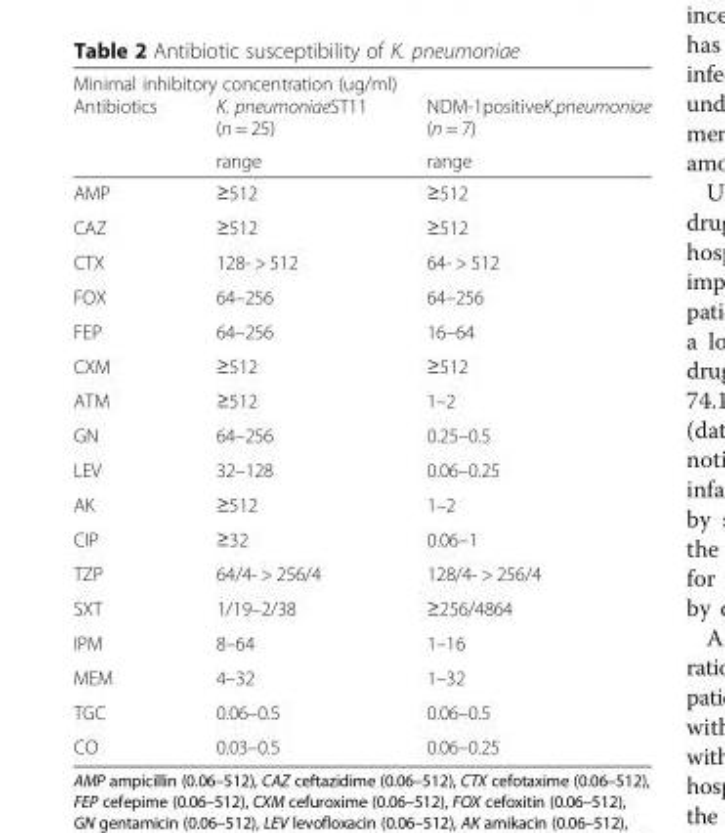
<table><thead><tr><td colspan="3">Minimal inhibitory concentration (ug/ml)</td></tr><tr><td rowspan="2">Antibiotics</td><td rowspan="2">K. pneumoniaeST11 (n = 25) range</td><td rowspan="2">NDM-1positiveK.pneumoniae (n = 7) range</td></tr><tr></tr></thead><tbody><tr><td>AMP</td><td>≥512</td><td>≥512</td></tr><tr><td>CAZ</td><td>≥512</td><td>≥512</td></tr><tr><td>CTX</td><td>128- &gt; 512</td><td>64- &gt; 512</td></tr><tr><td>FOX</td><td>64–256</td><td>64–256</td></tr><tr><td>FEP</td><td>64–256</td><td>16–64</td></tr><tr><td>CXM</td><td>≥512</td><td>≥512</td></tr><tr><td>ATM</td><td>≥512</td><td>1–2</td></tr><tr><td>GN</td><td>64–256</td><td>0.25–0.5</td></tr><tr><td>LEV</td><td>32–128</td><td>0.06–0.25</td></tr><tr><td>AK</td><td>≥512</td><td>1–2</td></tr><tr><td>CIP</td><td>≥32</td><td>0.06–1</td></tr><tr><td>TZP</td><td>64/4- &gt; 256/4</td><td>128/4- &gt; 256/4</td></tr><tr><td>SXT</td><td>1/19–2/38</td><td>≥256/4864</td></tr><tr><td>IPM</td><td>8–64</td><td>1–16</td></tr><tr><td>MEM</td><td>4–32</td><td>1–32</td></tr><tr><td>TGC</td><td>0.06–0.5</td><td>0.06–0.5</td></tr><tr><td>CO</td><td>0.03–0.5</td><td>0.06–0.25</td></tr></tbody></table>